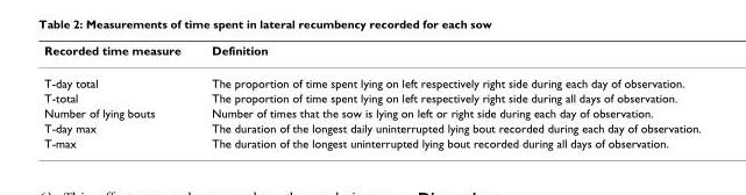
<table><thead><tr><td>Recorded time measure</td><td>Definition</td></tr></thead><tbody><tr><td>T-day total</td><td>The proportion of time spent lying on left respectively right side during each day of observation.</td></tr><tr><td>T-total</td><td>The proportion of time spent lying on left respectively right side during all days of observation.</td></tr><tr><td>Number of lying bouts</td><td>Number of times that the sow is lying on left or right side during each day of observation.</td></tr><tr><td>T-day max</td><td>The duration of the longest daily uninterrupted lying bout recorded during each day of observation.</td></tr><tr><td>T-max</td><td>The duration of the longest uninterrupted lying bout recorded during all days of observation.</td></tr></tbody></table>